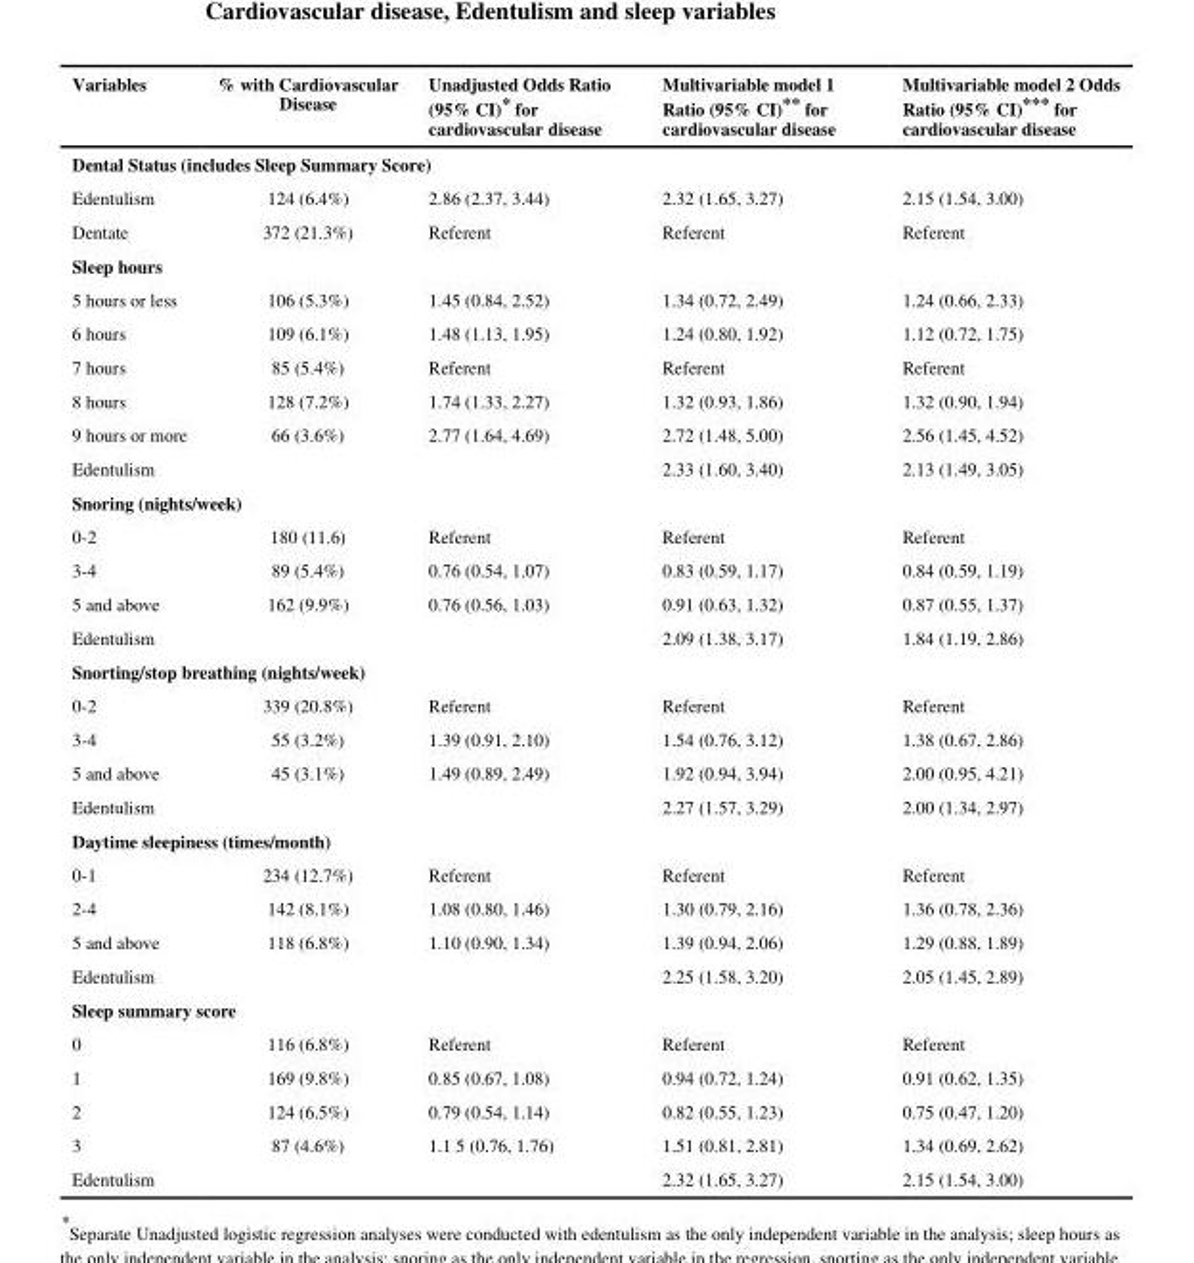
<table><thead><tr><td>Variables</td><td>% with Cardiovascular Disease</td><td>Unadjusted Odds Ratio (95% CI)* for cardiovascular disease</td><td>Multivariable model 1 Ratio (95% CI)** for cardiovascular disease</td><td>Multivariable model 2 Odds Ratio (95% CI)*** for cardiovascular disease</td></tr></thead><tbody><tr><td colspan="5">Dental Status (includes Sleep Summary Score)</td></tr><tr><td>Edentulism</td><td>124 (6.4%)</td><td>2.86 (2.37, 3.44)</td><td>2.32 (1.65, 3.27)</td><td>2.15 (1.54, 3.00)</td></tr><tr><td>Dentate</td><td>372 (21.3%)</td><td>Referent</td><td>Referent</td><td>Referent</td></tr><tr><td colspan="5">Sleep hours</td></tr><tr><td>5 hours or less</td><td>106 (5.3%)</td><td>1.45 (0.84, 2.52)</td><td>1.34 (0.72, 2.49)</td><td>1.24 (0.66, 2.33)</td></tr><tr><td>6 hours</td><td>109 (6.1%)</td><td>1.48 (1.13, 1.95)</td><td>1.24 (0.80, 1.92)</td><td>1.12 (0.72, 1.75)</td></tr><tr><td>7 hours</td><td>85 (5.4%)</td><td>Referent</td><td>Referent</td><td>Referent</td></tr><tr><td>8 hours</td><td>128 (7.2%)</td><td>1.74 (1.33, 2.27)</td><td>1.32 (0.93, 1.86)</td><td>1.32 (0.90, 1.94)</td></tr><tr><td>9 hours or more</td><td>66 (3.6%)</td><td>2.77 (1.64, 4.69)</td><td>2.72 (1.48, 5.00)</td><td>2.56 (1.45, 4.52)</td></tr><tr><td>Edentulism</td><td></td><td></td><td>2.33 (1.60, 3.40)</td><td>2.13 (1.49, 3.05)</td></tr><tr><td colspan="5">Snoring (nights/week)</td></tr><tr><td>0-2</td><td>180 (11.6)</td><td>Referent</td><td>Referent</td><td>Referent</td></tr><tr><td>3-4</td><td>89 (5.4%)</td><td>0.76 (0.54, 1.07)</td><td>0.83 (0.59, 1.17)</td><td>0.84 (0.59, 1.19)</td></tr><tr><td>5 and above</td><td>162 (9.9%)</td><td>0.76 (0.56, 1.03)</td><td>0.91 (0.63, 1.32)</td><td>0.87 (0.55, 1.37)</td></tr><tr><td>Edentulism</td><td></td><td></td><td>2.09 (1.38, 3.17)</td><td>1.84 (1.19, 2.86)</td></tr><tr><td colspan="5">Snorting/stop breathing (nights/week)</td></tr><tr><td>0-2</td><td>339 (20.8%)</td><td>Referent</td><td>Referent</td><td>Referent</td></tr><tr><td>3-4</td><td>55 (3.2%)</td><td>1.39 (0.91, 2.10)</td><td>1.54 (0.76, 3.12)</td><td>1.38 (0.67, 2.86)</td></tr><tr><td>5 and above</td><td>45 (3.1%)</td><td>1.49 (0.89, 2.49)</td><td>1.92 (0.94, 3.94)</td><td>2.00 (0.95, 4.21)</td></tr><tr><td>Edentulism</td><td></td><td></td><td>2.27 (1.57, 3.29)</td><td>2.00 (1.34, 2.97)</td></tr><tr><td colspan="5">Daytime sleepiness (times/month)</td></tr><tr><td>0-1</td><td>234 (12.7%)</td><td>Referent</td><td>Referent</td><td>Referent</td></tr><tr><td>2-4</td><td>142 (8.1%)</td><td>1.08 (0.80, 1.46)</td><td>1.30 (0.79, 2.16)</td><td>1.36 (0.78, 2.36)</td></tr><tr><td>5 and above</td><td>118 (6.8%)</td><td>1.10 (0.90, 1.34)</td><td>1.39 (0.94, 2.06)</td><td>1.29 (0.88, 1.89)</td></tr><tr><td>Edentulism</td><td></td><td></td><td>2.25 (1.58, 3.20)</td><td>2.05 (1.45, 2.89)</td></tr><tr><td colspan="5">Sleep summary score</td></tr><tr><td>0</td><td>116 (6.8%)</td><td>Referent</td><td>Referent</td><td>Referent</td></tr><tr><td>1</td><td>169 (9.8%)</td><td>0.85 (0.67, 1.08)</td><td>0.94 (0.72, 1.24)</td><td>0.91 (0.62, 1.35)</td></tr><tr><td>2</td><td>124 (6.5%)</td><td>0.79 (0.54, 1.14)</td><td>0.82 (0.55, 1.23)</td><td>0.75 (0.47, 1.20)</td></tr><tr><td>3</td><td>87 (4.6%)</td><td>1.1 5 (0.76, 1.76)</td><td>1.51 (0.81, 2.81)</td><td>1.34 (0.69, 2.62)</td></tr><tr><td>Edentulism</td><td></td><td></td><td>2.32 (1.65, 3.27)</td><td>2.15 (1.54, 3.00)</td></tr></tbody></table>